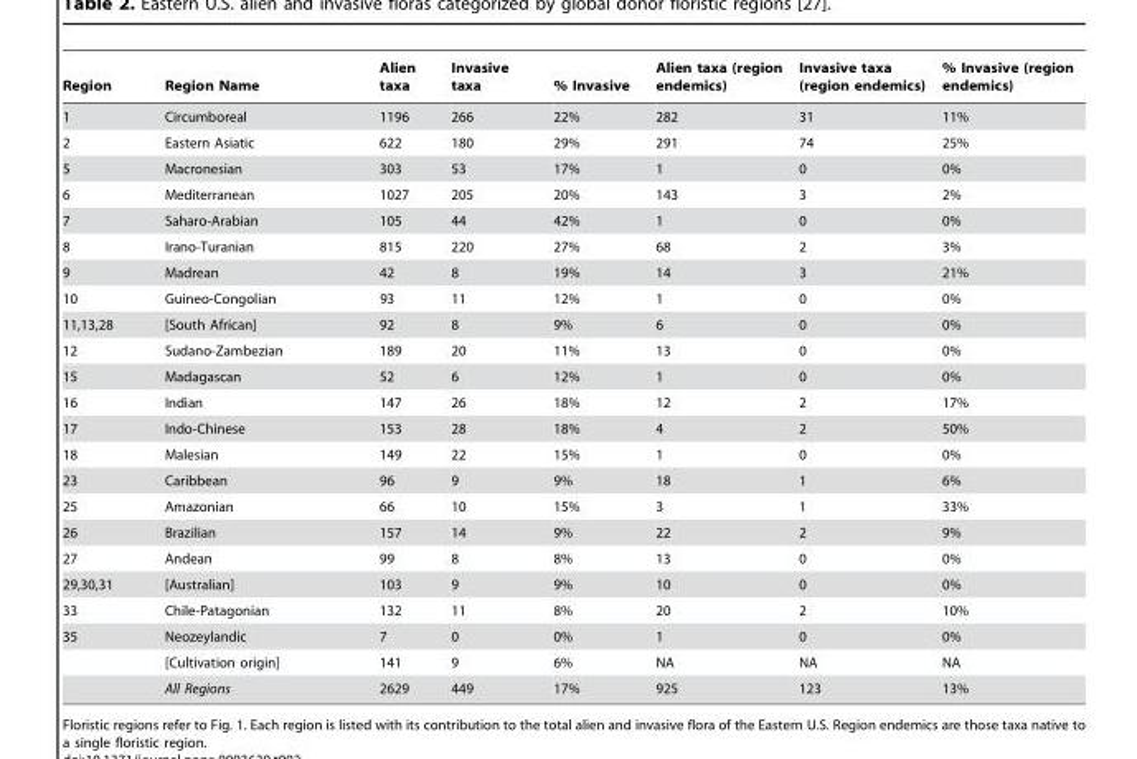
<table><thead><tr><td>Region</td><td>Region Name</td><td>Alien taxa</td><td>Invasive taxa</td><td>% Invasive</td><td>Alien taxa (region endemics)</td><td>Invasive taxa (region endemics)</td><td>% Invasive (region endemics)</td></tr></thead><tbody><tr><td>1</td><td>Circumboreal</td><td>1196</td><td>266</td><td>22%</td><td>282</td><td>31</td><td>11%</td></tr><tr><td>2</td><td>Eastern Asiatic</td><td>622</td><td>180</td><td>29%</td><td>291</td><td>74</td><td>25%</td></tr><tr><td>5</td><td>Macronesian</td><td>303</td><td>53</td><td>17%</td><td>1</td><td>0</td><td>0%</td></tr><tr><td>6</td><td>Mediterranean</td><td>1027</td><td>205</td><td>20%</td><td>143</td><td>3</td><td>2%</td></tr><tr><td>7</td><td>Saharo-Arabian</td><td>105</td><td>44</td><td>42%</td><td>1</td><td>0</td><td>0%</td></tr><tr><td>8</td><td>Irano-Turanian</td><td>815</td><td>220</td><td>27%</td><td>68</td><td>2</td><td>3%</td></tr><tr><td>9</td><td>Madrean</td><td>42</td><td>8</td><td>19%</td><td>14</td><td>3</td><td>21%</td></tr><tr><td>10</td><td>Guineo-Congolian</td><td>93</td><td>11</td><td>12%</td><td>1</td><td>0</td><td>0%</td></tr><tr><td>11,13,28</td><td>[South African]</td><td>92</td><td>8</td><td>9%</td><td>6</td><td>0</td><td>0%</td></tr><tr><td>12</td><td>Sudano-Zambezian</td><td>189</td><td>20</td><td>11%</td><td>13</td><td>0</td><td>0%</td></tr><tr><td>15</td><td>Madagascan</td><td>52</td><td>6</td><td>12%</td><td>1</td><td>0</td><td>0%</td></tr><tr><td>16</td><td>Indian</td><td>147</td><td>26</td><td>18%</td><td>12</td><td>2</td><td>17%</td></tr><tr><td>17</td><td>Indo-Chinese</td><td>153</td><td>28</td><td>18%</td><td>4</td><td>2</td><td>50%</td></tr><tr><td>18</td><td>Malesian</td><td>149</td><td>22</td><td>15%</td><td>1</td><td>0</td><td>0%</td></tr><tr><td>23</td><td>Caribbean</td><td>96</td><td>9</td><td>9%</td><td>18</td><td>1</td><td>6%</td></tr><tr><td>25</td><td>Amazonian</td><td>66</td><td>10</td><td>15%</td><td>3</td><td>1</td><td>33%</td></tr><tr><td>26</td><td>Brazilian</td><td>157</td><td>14</td><td>9%</td><td>22</td><td>2</td><td>9%</td></tr><tr><td>27</td><td>Andean</td><td>99</td><td>8</td><td>8%</td><td>13</td><td>0</td><td>0%</td></tr><tr><td>29,30,31</td><td>[Australian]</td><td>103</td><td>9</td><td>9%</td><td>10</td><td>0</td><td>0%</td></tr><tr><td>33</td><td>Chile-Patagonian</td><td>132</td><td>11</td><td>8%</td><td>20</td><td>2</td><td>10%</td></tr><tr><td rowspan="3">35</td><td>Neozeylandic</td><td>7</td><td>0</td><td>0%</td><td>1</td><td>0</td><td>0%</td></tr><tr><td>[Cultivation origin]</td><td>141</td><td>9</td><td>6%</td><td>NA</td><td>NA</td><td>NA</td></tr><tr><td>All Regions</td><td>2629</td><td>449</td><td>17%</td><td>925</td><td>123</td><td>13%</td></tr></tbody></table>